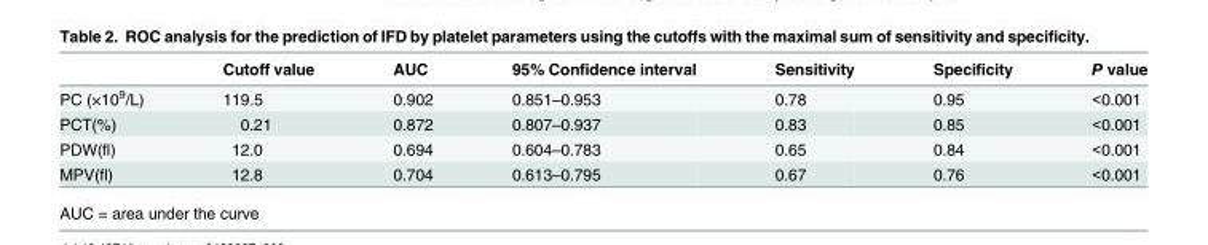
<table><thead><tr><td></td><td>Cutoff value</td><td>AUC</td><td>95% Confidence interval</td><td>Sensitivity</td><td>Specificity</td><td>P value</td></tr></thead><tbody><tr><td>PC (×10<sup>9</sup>/L)</td><td>119.5</td><td>0.902</td><td>0.851–0.953</td><td>0.78</td><td>0.95</td><td>&lt;0.001</td></tr><tr><td>PCT(%)</td><td>0.21</td><td>0.872</td><td>0.807–0.937</td><td>0.83</td><td>0.85</td><td>&lt;0.001</td></tr><tr><td>PDW(fl)</td><td>12.0</td><td>0.694</td><td>0.604–0.783</td><td>0.65</td><td>0.84</td><td>&lt;0.001</td></tr><tr><td>MPV(fl)</td><td>12.8</td><td>0.704</td><td>0.613–0.795</td><td>0.67</td><td>0.76</td><td>&lt;0.001</td></tr></tbody></table>